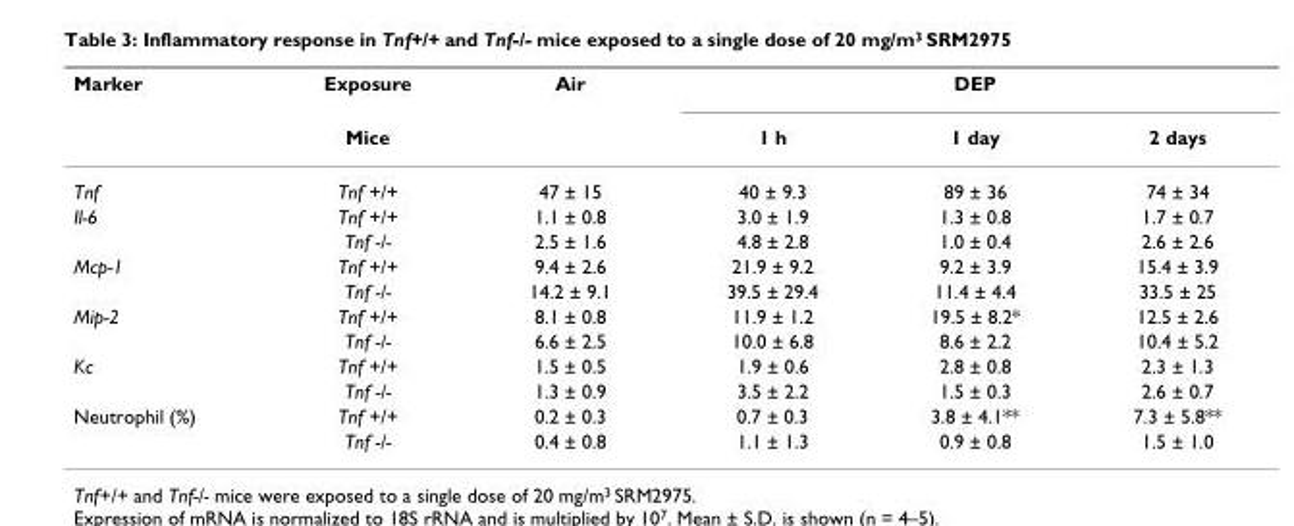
<table><thead><tr><td rowspan="2">Marker</td><td rowspan="2">Exposure Mice</td><td rowspan="2">Air</td><td colspan="3">DEP</td></tr><tr><td>1 h</td><td>1 day</td><td>2 days</td></tr></thead><tbody><tr><td>Tnf</td><td>Tnf +/+</td><td>47 ± 15</td><td>40 ± 9.3</td><td>89 ± 36</td><td>74 ± 34</td></tr><tr><td rowspan="2">Il-6</td><td>Tnf +/+</td><td>1.1 ± 0.8</td><td>3.0 ± 1.9</td><td>1.3 ± 0.8</td><td>1.7 ± 0.7</td></tr><tr><td>Tnf -/-</td><td>2.5 ± 1.6</td><td>4.8 ± 2.8</td><td>1.0 ± 0.4</td><td>2.6 ± 2.6</td></tr><tr><td rowspan="2">Mcp-1</td><td>Tnf +/+</td><td>9.4 ± 2.6</td><td>21.9 ± 9.2</td><td>9.2 ± 3.9</td><td>15.4 ± 3.9</td></tr><tr><td>Tnf -/-</td><td>14.2 ± 9.1</td><td>39.5 ± 29.4</td><td>11.4 ± 4.4</td><td>33.5 ± 25</td></tr><tr><td rowspan="2">Mip-2</td><td>Tnf +/+</td><td>8.1 ± 0.8</td><td>11.9 ± 1.2</td><td>19.5 ± 8.2*</td><td>12.5 ± 2.6</td></tr><tr><td>Tnf -/-</td><td>6.6 ± 2.5</td><td>10.0 ± 6.8</td><td>8.6 ± 2.2</td><td>10.4 ± 5.2</td></tr><tr><td rowspan="2">Kc</td><td>Tnf +/+</td><td>1.5 ± 0.5</td><td>1.9 ± 0.6</td><td>2.8 ± 0.8</td><td>2.3 ± 1.3</td></tr><tr><td>Tnf -/-</td><td>1.3 ± 0.9</td><td>3.5 ± 2.2</td><td>1.5 ± 0.3</td><td>2.6 ± 0.7</td></tr><tr><td rowspan="2">Neutrophil (%)</td><td>Tnf +/+</td><td>0.2 ± 0.3</td><td>0.7 ± 0.3</td><td>3.8 ± 4.1**</td><td>7.3 ± 5.8**</td></tr><tr><td>Tnf -/-</td><td>0.4 ± 0.8</td><td>1.1 ± 1.3</td><td>0.9 ± 0.8</td><td>1.5 ± 1.0</td></tr></tbody></table>